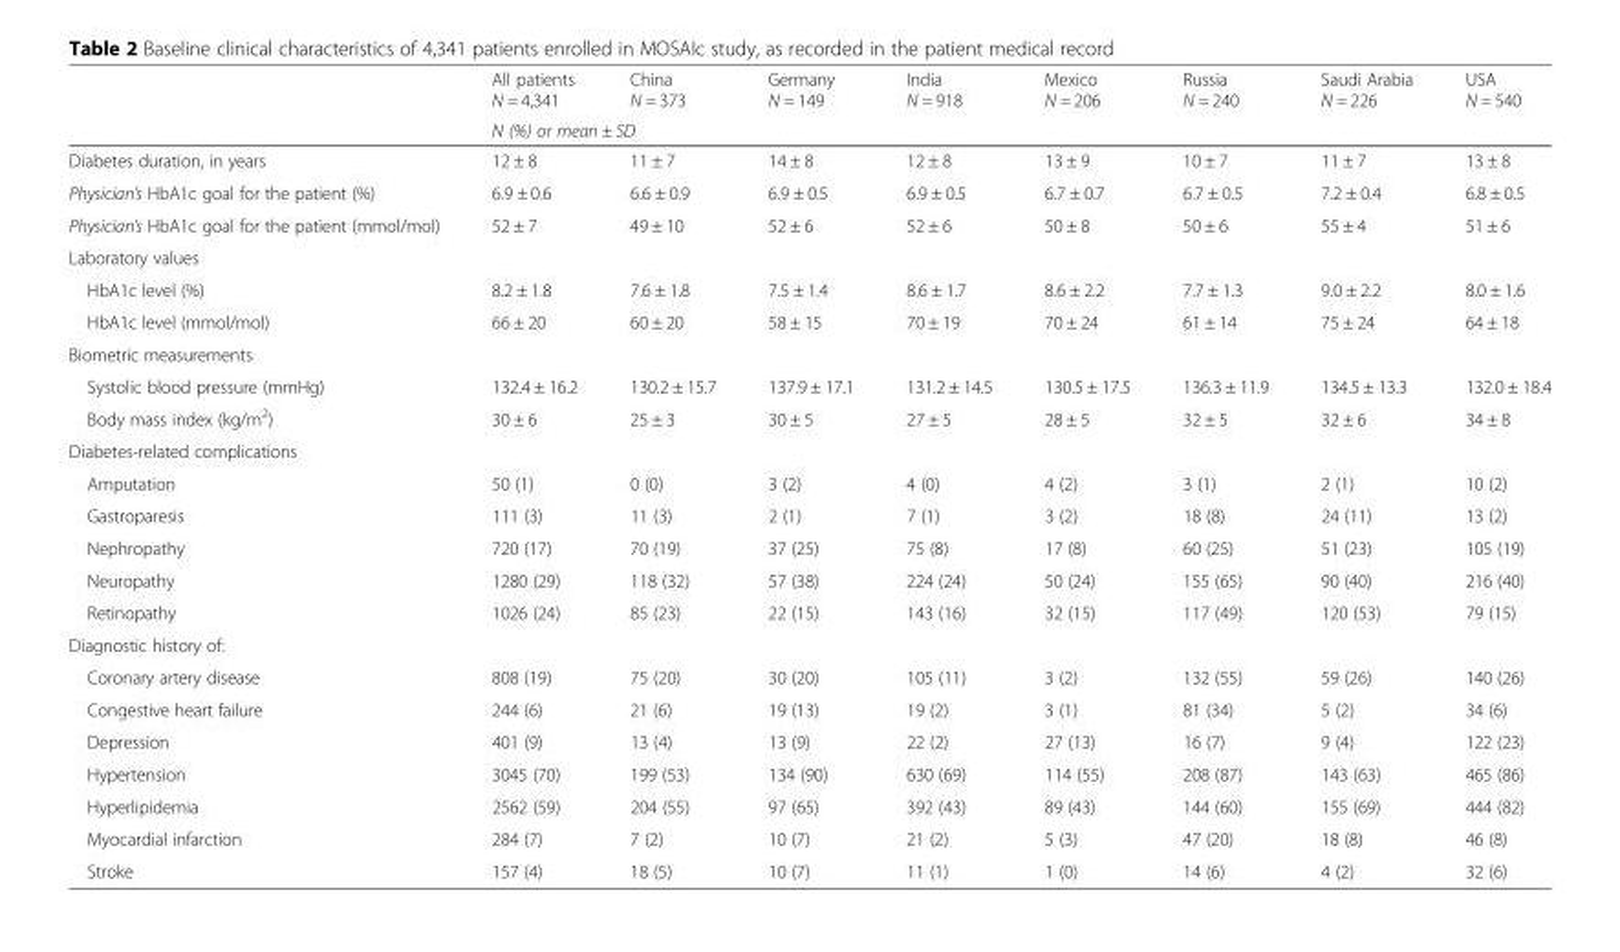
<table><thead><tr><td rowspan="2"></td><td>All patients N = 4,341</td><td>China N = 373</td><td>Germany N = 149</td><td>India N = 918</td><td>Mexico N = 206</td><td>Russia N = 240</td><td>Saudi Arabia N = 226</td><td>USA N = 540</td></tr><tr><td colspan="8">N (%) or mean ± SD</td></tr></thead><tbody><tr><td>Diabetes duration, in years</td><td>12 ± 8</td><td>11 ± 7</td><td>14 ± 8</td><td>12 ± 8</td><td>13 ± 9</td><td>10 ± 7</td><td>11 ± 7</td><td>13 ± 8</td></tr><tr><td>Physician’s HbA1c goal for the patient (%)</td><td>6.9 ± 0.6</td><td>6.6 ± 0.9</td><td>6.9 ± 0.5</td><td>6.9 ± 0.5</td><td>6.7 ± 0.7</td><td>6.7 ± 0.5</td><td>7.2 ± 0.4</td><td>6.8 ± 0.5</td></tr><tr><td>Physician’s HbA1c goal for the patient (mmol/mol)</td><td>52 ± 7</td><td>49 ± 10</td><td>52 ± 6</td><td>52 ± 6</td><td>50 ± 8</td><td>50 ± 6</td><td>55 ± 4</td><td>51 ± 6</td></tr><tr><td colspan="9">Laboratory values</td></tr><tr><td>HbA1c level (%)</td><td>8.2 ± 1.8</td><td>7.6 ± 1.8</td><td>7.5 ± 1.4</td><td>8.6 ± 1.7</td><td>8.6 ± 2.2</td><td>7.7 ± 1.3</td><td>9.0 ± 2.2</td><td>8.0 ± 1.6</td></tr><tr><td>HbA1c level (mmol/mol)</td><td>66 ± 20</td><td>60 ± 20</td><td>58 ± 15</td><td>70 ± 19</td><td>70 ± 24</td><td>61 ± 14</td><td>75 ± 24</td><td>64 ± 18</td></tr><tr><td colspan="9">Biometric measurements</td></tr><tr><td>Systolic blood pressure (mmHg)</td><td>132.4 ± 16.2</td><td>130.2 ± 15.7</td><td>137.9 ± 17.1</td><td>131.2 ± 14.5</td><td>130.5 ± 17.5</td><td>136.3 ± 11.9</td><td>134.5 ± 13.3</td><td>132.0 ± 18.4</td></tr><tr><td>Body mass index (kg/m<sup>2</sup>)</td><td>30 ± 6</td><td>25 ± 3</td><td>30 ± 5</td><td>27 ± 5</td><td>28 ± 5</td><td>32 ± 5</td><td>32 ± 6</td><td>34 ± 8</td></tr><tr><td colspan="9">Diabetes-related complications</td></tr><tr><td>Amputation</td><td>50 (1)</td><td>0 (0)</td><td>3 (2)</td><td>4 (0)</td><td>4 (2)</td><td>3 (1)</td><td>2 (1)</td><td>10 (2)</td></tr><tr><td>Gastroparesis</td><td>111 (3)</td><td>11 (3)</td><td>2 (1)</td><td>7 (1)</td><td>3 (2)</td><td>18 (8)</td><td>24 (11)</td><td>13 (2)</td></tr><tr><td>Nephropathy</td><td>720 (17)</td><td>70 (19)</td><td>37 (25)</td><td>75 (8)</td><td>17 (8)</td><td>60 (25)</td><td>51 (23)</td><td>105 (19)</td></tr><tr><td>Neuropathy</td><td>1280 (29)</td><td>118 (32)</td><td>57 (38)</td><td>224 (24)</td><td>50 (24)</td><td>155 (65)</td><td>90 (40)</td><td>216 (40)</td></tr><tr><td>Retinopathy</td><td>1026 (24)</td><td>85 (23)</td><td>22 (15)</td><td>143 (16)</td><td>32 (15)</td><td>117 (49)</td><td>120 (53)</td><td>79 (15)</td></tr><tr><td colspan="9">Diagnostic history of:</td></tr><tr><td>Coronary artery disease</td><td>808 (19)</td><td>75 (20)</td><td>30 (20)</td><td>105 (11)</td><td>3 (2)</td><td>132 (55)</td><td>59 (26)</td><td>140 (26)</td></tr><tr><td>Congestive heart failure</td><td>244 (6)</td><td>21 (6)</td><td>19 (13)</td><td>19 (2)</td><td>3 (1)</td><td>81 (34)</td><td>5 (2)</td><td>34 (6)</td></tr><tr><td>Depression</td><td>401 (9)</td><td>13 (4)</td><td>13 (9)</td><td>22 (2)</td><td>27 (13)</td><td>16 (7)</td><td>9 (4)</td><td>122 (23)</td></tr><tr><td>Hypertension</td><td>3045 (70)</td><td>199 (53)</td><td>134 (90)</td><td>630 (69)</td><td>114 (55)</td><td>208 (87)</td><td>143 (63)</td><td>465 (86)</td></tr><tr><td>Hyperlipidemia</td><td>2562 (59)</td><td>204 (55)</td><td>97 (65)</td><td>392 (43)</td><td>89 (43)</td><td>144 (60)</td><td>155 (69)</td><td>444 (82)</td></tr><tr><td>Myocardial infarction</td><td>284 (7)</td><td>7 (2)</td><td>10 (7)</td><td>21 (2)</td><td>5 (3)</td><td>47 (20)</td><td>18 (8)</td><td>46 (8)</td></tr><tr><td>Stroke</td><td>157 (4)</td><td>18 (5)</td><td>10 (7)</td><td>11 (1)</td><td>1 (0)</td><td>14 (6)</td><td>4 (2)</td><td>32 (6)</td></tr></tbody></table>